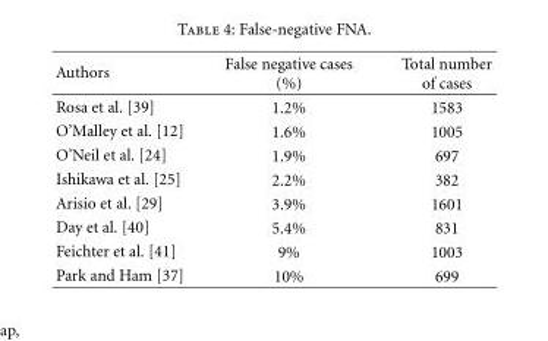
<table><thead><tr><td>Authors</td><td>False negative cases (%)</td><td>Total number of cases</td></tr></thead><tbody><tr><td>Rosa et al. [39]</td><td>1.2%</td><td>1583</td></tr><tr><td>O’Malley et al. [12]</td><td>1.6%</td><td>1005</td></tr><tr><td>O’Neil et al. [24]</td><td>1.9%</td><td>697</td></tr><tr><td>Ishikawa et al. [25]</td><td>2.2%</td><td>382</td></tr><tr><td>Arisio et al. [29]</td><td>3.9%</td><td>1601</td></tr><tr><td>Day et al. [40]</td><td>5.4%</td><td>831</td></tr><tr><td>Feichter et al. [41]</td><td>9%</td><td>1003</td></tr><tr><td>Park and Ham [37]</td><td>10%</td><td>699</td></tr></tbody></table>